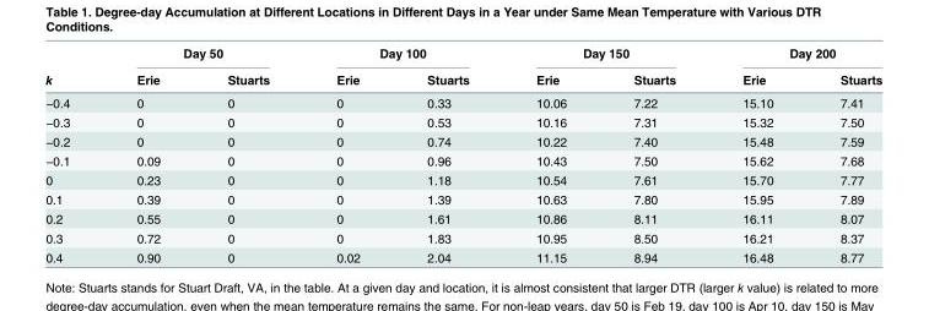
<table><thead><tr><td rowspan="2">k</td><td colspan="2">Day 50</td><td colspan="2">Day 100</td><td colspan="2">Day 150</td><td colspan="2">Day 200</td></tr><tr><td>Erie</td><td>Stuarts</td><td>Erie</td><td>Stuarts</td><td>Erie</td><td>Stuarts</td><td>Erie</td><td>Stuarts</td></tr></thead><tbody><tr><td>−0.4</td><td>0</td><td>0</td><td>0</td><td>0.33</td><td>10.06</td><td>7.22</td><td>15.10</td><td>7.41</td></tr><tr><td>−0.3</td><td>0</td><td>0</td><td>0</td><td>0.53</td><td>10.16</td><td>7.31</td><td>15.32</td><td>7.50</td></tr><tr><td>−0.2</td><td>0</td><td>0</td><td>0</td><td>0.74</td><td>10.22</td><td>7.40</td><td>15.48</td><td>7.59</td></tr><tr><td>−0.1</td><td>0.09</td><td>0</td><td>0</td><td>0.96</td><td>10.43</td><td>7.50</td><td>15.62</td><td>7.68</td></tr><tr><td>0</td><td>0.23</td><td>0</td><td>0</td><td>1.18</td><td>10.54</td><td>7.61</td><td>15.70</td><td>7.77</td></tr><tr><td>0.1</td><td>0.39</td><td>0</td><td>0</td><td>1.39</td><td>10.63</td><td>7.80</td><td>15.95</td><td>7.89</td></tr><tr><td>0.2</td><td>0.55</td><td>0</td><td>0</td><td>1.61</td><td>10.86</td><td>8.11</td><td>16.11</td><td>8.07</td></tr><tr><td>0.3</td><td>0.72</td><td>0</td><td>0</td><td>1.83</td><td>10.95</td><td>8.50</td><td>16.21</td><td>8.37</td></tr><tr><td>0.4</td><td>0.90</td><td>0</td><td>0.02</td><td>2.04</td><td>11.15</td><td>8.94</td><td>16.48</td><td>8.77</td></tr></tbody></table>